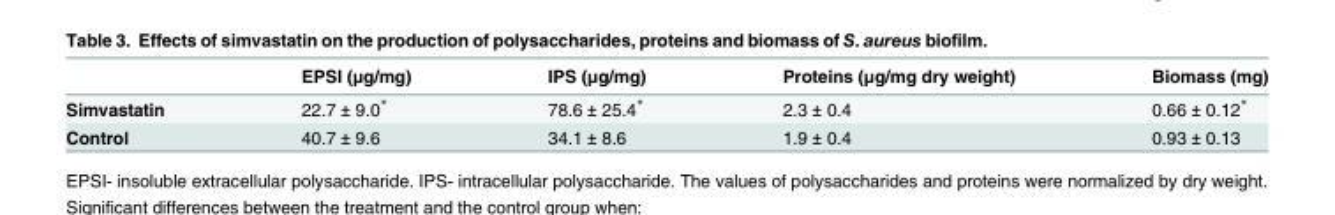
<table><thead><tr><td></td><td>EPSI (μg/mg)</td><td>IPS (μg/mg)</td><td>Proteins (μg/mg dry weight)</td><td>Biomass (mg)</td></tr></thead><tbody><tr><td>Simvastatin</td><td>22.7 ± 9.0*</td><td>78.6 ± 25.4*</td><td>2.3 ± 0.4</td><td>0.66 ± 0.12*</td></tr><tr><td>Control</td><td>40.7 ± 9.6</td><td>34.1 ± 8.6</td><td>1.9 ± 0.4</td><td>0.93 ± 0.13</td></tr></tbody></table>